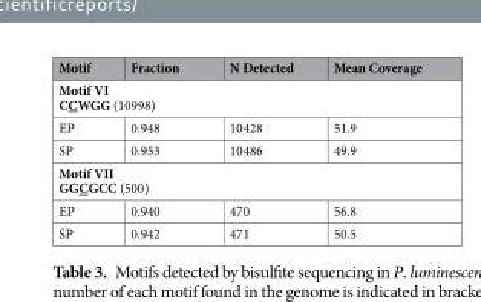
<table><thead><tr><td>Motif</td><td>Fraction</td><td>N Detected</td><td>Mean Coverage</td></tr></thead><tbody><tr><td colspan="4">Motif VI CCWGG (10998)</td></tr><tr><td>EP</td><td>0.948</td><td>10428</td><td>51.9</td></tr><tr><td>SP</td><td>0.953</td><td>10486</td><td>49.9</td></tr><tr><td colspan="4">Motif VII GGCGCC (500)</td></tr><tr><td>EP</td><td>0.940</td><td>470</td><td>56.8</td></tr><tr><td>SP</td><td>0.942</td><td>471</td><td>50.5</td></tr></tbody></table>